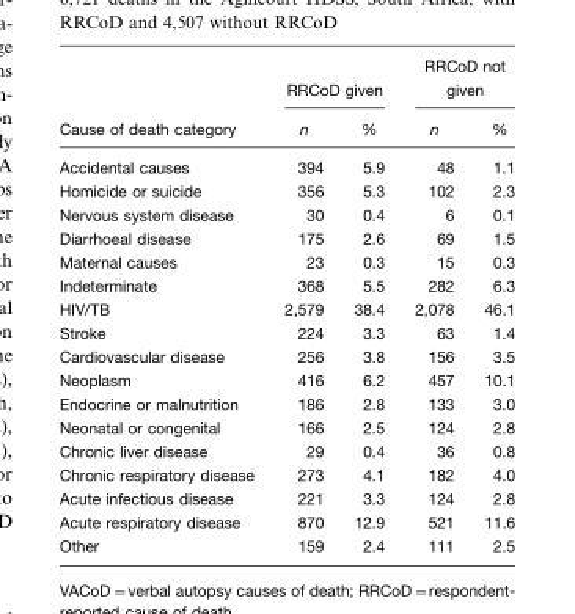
<table><thead><tr><td rowspan="2">Cause of death category</td><td colspan="2">RRCoD given</td><td colspan="2">RRCoD not given</td></tr><tr><td>n</td><td>%</td><td>n</td><td>%</td></tr></thead><tbody><tr><td>Accidental causes</td><td>394</td><td>5.9</td><td>48</td><td>1.1</td></tr><tr><td>Homicide or suicide</td><td>356</td><td>5.3</td><td>102</td><td>2.3</td></tr><tr><td>Nervous system disease</td><td>30</td><td>0.4</td><td>6</td><td>0.1</td></tr><tr><td>Diarrhoeal disease</td><td>175</td><td>2.6</td><td>69</td><td>1.5</td></tr><tr><td>Maternal causes</td><td>23</td><td>0.3</td><td>15</td><td>0.3</td></tr><tr><td>Indeterminate</td><td>368</td><td>5.5</td><td>282</td><td>6.3</td></tr><tr><td>HIV/TB</td><td>2,579</td><td>38.4</td><td>2,078</td><td>46.1</td></tr><tr><td>Stroke</td><td>224</td><td>3.3</td><td>63</td><td>1.4</td></tr><tr><td>Cardiovascular disease</td><td>256</td><td>3.8</td><td>156</td><td>3.5</td></tr><tr><td>Neoplasm</td><td>416</td><td>6.2</td><td>457</td><td>10.1</td></tr><tr><td>Endocrine or malnutrition</td><td>186</td><td>2.8</td><td>133</td><td>3.0</td></tr><tr><td>Neonatal or congenital</td><td>166</td><td>2.5</td><td>124</td><td>2.8</td></tr><tr><td>Chronic liver disease</td><td>29</td><td>0.4</td><td>36</td><td>0.8</td></tr><tr><td>Chronic respiratory disease</td><td>273</td><td>4.1</td><td>182</td><td>4.0</td></tr><tr><td>Acute infectious disease</td><td>221</td><td>3.3</td><td>124</td><td>2.8</td></tr><tr><td>Acute respiratory disease</td><td>870</td><td>12.9</td><td>521</td><td>11.6</td></tr><tr><td>Other</td><td>159</td><td>2.4</td><td>111</td><td>2.5</td></tr></tbody></table>